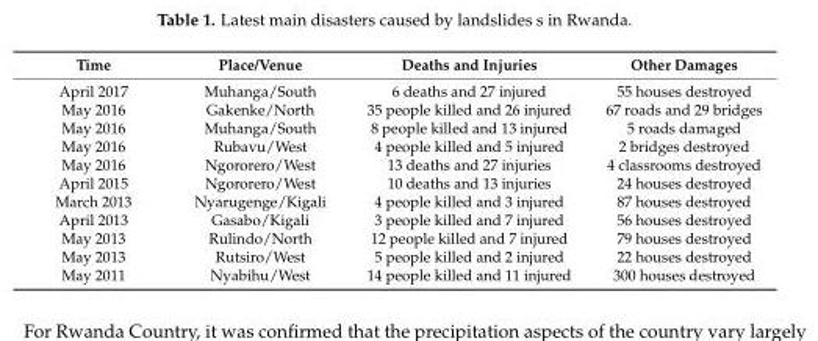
<table><thead><tr><td>Time</td><td>Place/Venue</td><td>Deaths and Injuries</td><td>Other Damages</td></tr></thead><tbody><tr><td>April 2017</td><td>Muhanga/South</td><td>6 deaths and 27 injured</td><td>55 houses destroyed</td></tr><tr><td>May 2016</td><td>Gakenke/North</td><td>35 people killed and 26 injured</td><td>67 roads and 29 bridges</td></tr><tr><td>May 2016</td><td>Muhanga/South</td><td>8 people killed and 13 injured</td><td>5 roads damaged</td></tr><tr><td>May 2016</td><td>Rubavu/West</td><td>4 people killed and 5 injured</td><td>2 bridges destroyed</td></tr><tr><td>May 2016</td><td>Ngororero/West</td><td>13 deaths and 27 injuries</td><td>4 classrooms destroyed</td></tr><tr><td>April 2015</td><td>Ngororero/West</td><td>10 deaths and 13 injuries</td><td>24 houses destroyed</td></tr><tr><td>March 2013</td><td>Nyarugenge/Kigali</td><td>4 people killed and 3 injured</td><td>87 houses destroyed</td></tr><tr><td>April 2013</td><td>Gasabo/Kigali</td><td>3 people killed and 7 injured</td><td>56 houses destroyed</td></tr><tr><td>May 2013</td><td>Rulindo/North</td><td>12 people killed and 7 injured</td><td>79 houses destroyed</td></tr><tr><td>May 2013</td><td>Rutsiro/West</td><td>5 people killed and 2 injured</td><td>22 houses destroyed</td></tr><tr><td>May 2011</td><td>Nyabihu/West</td><td>14 people killed and 11 injured</td><td>300 houses destroyed</td></tr></tbody></table>